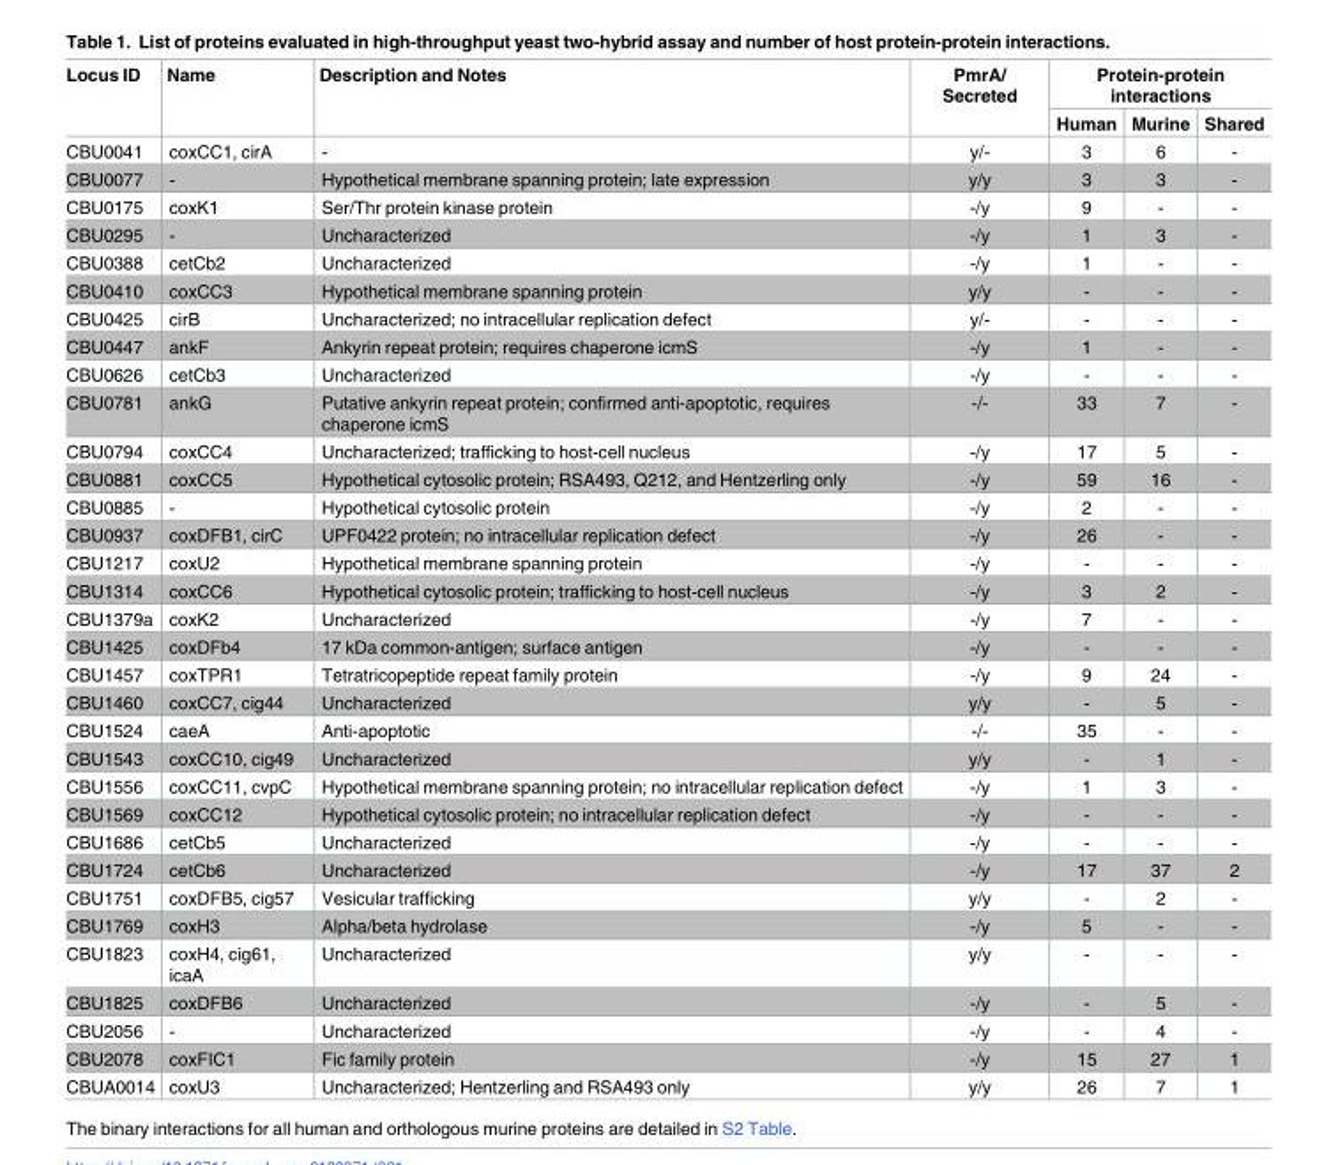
<table><thead><tr><td rowspan="2">Locus ID</td><td rowspan="2">Name</td><td rowspan="2">Description and Notes</td><td rowspan="2">PmrA/ Secreted</td><td colspan="3">Protein-protein interactions</td></tr><tr><td>Human</td><td>Murine</td><td>Shared</td></tr></thead><tbody><tr><td>CBU0041</td><td>coxCC1, cirA</td><td>-</td><td>y/-</td><td>3</td><td>6</td><td>-</td></tr><tr><td>CBU0077</td><td>-</td><td>Hypothetical membrane spanning protein; late expression</td><td>y/y</td><td>3</td><td>3</td><td>-</td></tr><tr><td>CBU0175</td><td>coxK1</td><td>Ser/Thr protein kinase protein</td><td>-/y</td><td>9</td><td>-</td><td>-</td></tr><tr><td>CBU0295</td><td>-</td><td>Uncharacterized</td><td>-/y</td><td>1</td><td>3</td><td>-</td></tr><tr><td>CBU0388</td><td>cetCb2</td><td>Uncharacterized</td><td>-/y</td><td>1</td><td>-</td><td>-</td></tr><tr><td>CBU0410</td><td>coxCC3</td><td>Hypothetical membrane spanning protein</td><td>y/y</td><td>-</td><td>-</td><td>-</td></tr><tr><td>CBU0425</td><td>cirB</td><td>Uncharacterized; no intracellular replication defect</td><td>y/-</td><td>-</td><td>-</td><td>-</td></tr><tr><td>CBU0447</td><td>ankF</td><td>Ankyrin repeat protein; requires chaperone icmS</td><td>-/y</td><td>1</td><td>-</td><td>-</td></tr><tr><td>CBU0626</td><td>cetCb3</td><td>Uncharacterized</td><td>-/y</td><td>-</td><td>-</td><td>-</td></tr><tr><td>CBU0781</td><td>ankG</td><td>Putative ankyrin repeat protein; confirmed anti-apoptotic, requires chaperone icmS</td><td>-/-</td><td>33</td><td>7</td><td>-</td></tr><tr><td>CBU0794</td><td>coxCC4</td><td>Uncharacterized; trafficking to host-cell nucleus</td><td>-/y</td><td>17</td><td>5</td><td>-</td></tr><tr><td>CBU0881</td><td>coxCC5</td><td>Hypothetical cytosolic protein; RSA493, Q212, and Hentzerling only</td><td>-/y</td><td>59</td><td>16</td><td>-</td></tr><tr><td>CBU0885</td><td>-</td><td>Hypothetical cytosolic protein</td><td>-/y</td><td>2</td><td>-</td><td>-</td></tr><tr><td>CBU0937</td><td>coxDFB1, cirC</td><td>UPF0422 protein; no intracellular replication defect</td><td>-/y</td><td>26</td><td>-</td><td>-</td></tr><tr><td>CBU1217</td><td>coxU2</td><td>Hypothetical membrane spanning protein</td><td>-/y</td><td>-</td><td>-</td><td>-</td></tr><tr><td>CBU1314</td><td>coxCC6</td><td>Hypothetical cytosolic protein; trafficking to host-cell nucleus</td><td>-/y</td><td>3</td><td>2</td><td>-</td></tr><tr><td>CBU1379a</td><td>coxK2</td><td>Uncharacterized</td><td>-/y</td><td>7</td><td>-</td><td>-</td></tr><tr><td>CBU1425</td><td>coxDFb4</td><td>17 kDa common-antigen; surface antigen</td><td>-/y</td><td>-</td><td>-</td><td>-</td></tr><tr><td>CBU1457</td><td>coxTPR1</td><td>Tetratricopeptide repeat family protein</td><td>-/y</td><td>9</td><td>24</td><td>-</td></tr><tr><td>CBU1460</td><td>coxCC7, cig44</td><td>Uncharacterized</td><td>y/y</td><td>-</td><td>5</td><td>-</td></tr><tr><td>CBU1524</td><td>caeA</td><td>Anti-apoptotic</td><td>-/-</td><td>35</td><td>-</td><td>-</td></tr><tr><td>CBU1543</td><td>coxCC10, cig49</td><td>Uncharacterized</td><td>y/y</td><td>-</td><td>1</td><td>-</td></tr><tr><td>CBU1556</td><td>coxCC11, cvpC</td><td>Hypothetical membrane spanning protein; no intracellular replication defect</td><td>-/y</td><td>1</td><td>3</td><td>-</td></tr><tr><td>CBU1569</td><td>coxCC12</td><td>Hypothetical cytosolic protein; no intracellular replication defect</td><td>-/y</td><td>-</td><td>-</td><td>-</td></tr><tr><td>CBU1686</td><td>cetCb5</td><td>Uncharacterized</td><td>-/y</td><td>-</td><td>-</td><td>-</td></tr><tr><td>CBU1724</td><td>cetCb6</td><td>Uncharacterized</td><td>-/y</td><td>17</td><td>37</td><td>2</td></tr><tr><td>CBU1751</td><td>coxDFB5, cig57</td><td>Vesicular trafficking</td><td>y/y</td><td>-</td><td>2</td><td>-</td></tr><tr><td>CBU1769</td><td>coxH3</td><td>Alpha/beta hydrolase</td><td>-/y</td><td>5</td><td>-</td><td>-</td></tr><tr><td>CBU1823</td><td>coxH4, cig61, icaA</td><td>Uncharacterized</td><td>y/y</td><td>-</td><td>-</td><td>-</td></tr><tr><td>CBU1825</td><td>coxDFB6</td><td>Uncharacterized</td><td>-/y</td><td>-</td><td>5</td><td>-</td></tr><tr><td>CBU2056</td><td>-</td><td>Uncharacterized</td><td>-/y</td><td>-</td><td>4</td><td>-</td></tr><tr><td>CBU2078</td><td>coxFIC1</td><td>Fic family protein</td><td>-/y</td><td>15</td><td>27</td><td>1</td></tr><tr><td>CBUA0014</td><td>coxU3</td><td>Uncharacterized; Hentzerling and RSA493 only</td><td>y/y</td><td>26</td><td>7</td><td>1</td></tr></tbody></table>